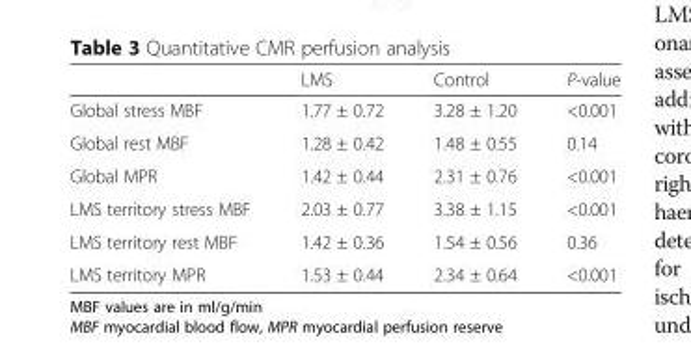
<table><thead><tr><td></td><td>LMS</td><td>Control</td><td>P-value</td></tr></thead><tbody><tr><td>Global stress MBF</td><td>1.77 ± 0.72</td><td>3.28 ± 1.20</td><td>&lt;0.001</td></tr><tr><td>Global rest MBF</td><td>1.28 ± 0.42</td><td>1.48 ± 0.55</td><td>0.14</td></tr><tr><td>Global MPR</td><td>1.42 ± 0.44</td><td>2.31 ± 0.76</td><td>&lt;0.001</td></tr><tr><td>LMS territory stress MBF</td><td>2.03 ± 0.77</td><td>3.38 ± 1.15</td><td>&lt;0.001</td></tr><tr><td>LMS territory rest MBF</td><td>1.42 ± 0.36</td><td>1.54 ± 0.56</td><td>0.36</td></tr><tr><td>LMS territory MPR</td><td>1.53 ± 0.44</td><td>2.34 ± 0.64</td><td>&lt;0.001</td></tr></tbody></table>